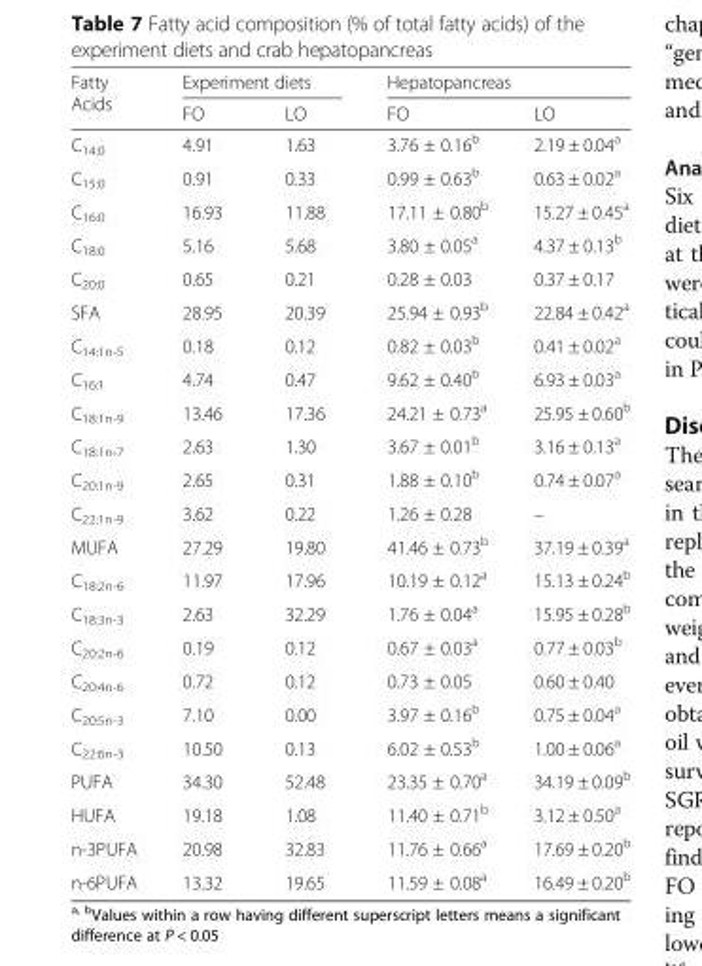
<table><thead><tr><td rowspan="2">Fatty Acids</td><td colspan="2">Experiment diets</td><td colspan="2">Hepatopancreas</td></tr><tr><td>FO</td><td>LO</td><td>FO</td><td>LO</td></tr></thead><tbody><tr><td>C<sub>14:0</sub></td><td>4.91</td><td>1.63</td><td>3.76 ± 0.16<sup>b</sup></td><td>2.19 ± 0.04<sup>a</sup></td></tr><tr><td>C<sub>15:0</sub></td><td>0.91</td><td>0.33</td><td>0.99 ± 0.63<sup>b</sup></td><td>0.63 ± 0.02<sup>a</sup></td></tr><tr><td>C<sub>16:0</sub></td><td>16.93</td><td>11.88</td><td>17.11 ± 0.80<sup>b</sup></td><td>15.27 ± 0.45<sup>a</sup></td></tr><tr><td>C<sub>18:0</sub></td><td>5.16</td><td>5.68</td><td>3.80 ± 0.05<sup>a</sup></td><td>4.37 ± 0.13<sup>b</sup></td></tr><tr><td>C<sub>20:0</sub></td><td>0.65</td><td>0.21</td><td>0.28 ± 0.03</td><td>0.37 ± 0.17</td></tr><tr><td>SFA</td><td>28.95</td><td>20.39</td><td>25.94 ± 0.93<sup>b</sup></td><td>22.84 ± 0.42<sup>a</sup></td></tr><tr><td>C<sub>14:1n-5</sub></td><td>0.18</td><td>0.12</td><td>0.82 ± 0.03<sup>b</sup></td><td>0.41 ± 0.02<sup>a</sup></td></tr><tr><td>C<sub>16:1</sub></td><td>4.74</td><td>0.47</td><td>9.62 ± 0.40<sup>b</sup></td><td>6.93 ± 0.03<sup>a</sup></td></tr><tr><td>C<sub>18:1n-9</sub></td><td>13.46</td><td>17.36</td><td>24.21 ± 0.73<sup>a</sup></td><td>25.95 ± 0.60<sup>b</sup></td></tr><tr><td>C<sub>18:1n-7</sub></td><td>2.63</td><td>1.30</td><td>3.67 ± 0.01<sup>b</sup></td><td>3.16 ± 0.13<sup>a</sup></td></tr><tr><td>C<sub>20:1n-9</sub></td><td>2.65</td><td>0.31</td><td>1.88 ± 0.10<sup>b</sup></td><td>0.74 ± 0.07<sup>a</sup></td></tr><tr><td>C<sub>22:1n-9</sub></td><td>3.62</td><td>0.22</td><td>1.26 ± 0.28</td><td>–</td></tr><tr><td>MUFA</td><td>27.29</td><td>19.80</td><td>41.46 ± 0.73<sup>b</sup></td><td>37.19 ± 0.39<sup>a</sup></td></tr><tr><td>C<sub>18:2n-6</sub></td><td>11.97</td><td>17.96</td><td>10.19 ± 0.12<sup>a</sup></td><td>15.13 ± 0.24<sup>b</sup></td></tr><tr><td>C<sub>18:3n-3</sub></td><td>2.63</td><td>32.29</td><td>1.76 ± 0.04<sup>a</sup></td><td>15.95 ± 0.28<sup>b</sup></td></tr><tr><td>C<sub>20:2n-6</sub></td><td>0.19</td><td>0.12</td><td>0.67 ± 0.03<sup>a</sup></td><td>0.77 ± 0.03<sup>b</sup></td></tr><tr><td>C<sub>20:4n-6</sub></td><td>0.72</td><td>0.12</td><td>0.73 ± 0.05</td><td>0.60 ± 0.40</td></tr><tr><td>C<sub>20:5n-3</sub></td><td>7.10</td><td>0.00</td><td>3.97 ± 0.16<sup>b</sup></td><td>0.75 ± 0.04<sup>a</sup></td></tr><tr><td>C<sub>22:6n-3</sub></td><td>10.50</td><td>0.13</td><td>6.02 ± 0.53<sup>b</sup></td><td>1.00 ± 0.06<sup>a</sup></td></tr><tr><td>PUFA</td><td>34.30</td><td>52.48</td><td>23.35 ± 0.70<sup>a</sup></td><td>34.19 ± 0.09<sup>b</sup></td></tr><tr><td>HUFA</td><td>19.18</td><td>1.08</td><td>11.40 ± 0.71<sup>b</sup></td><td>3.12 ± 0.50<sup>a</sup></td></tr><tr><td>n-3PUFA</td><td>20.98</td><td>32.83</td><td>11.76 ± 0.66<sup>a</sup></td><td>17.69 ± 0.20<sup>b</sup></td></tr><tr><td>n-6PUFA</td><td>13.32</td><td>19.65</td><td>11.59 ± 0.08<sup>a</sup></td><td>16.49 ± 0.20<sup>b</sup></td></tr></tbody></table>